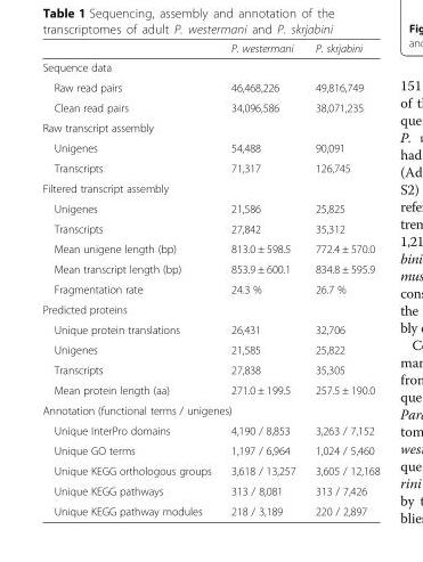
<table><thead><tr><td></td><td>P. westermani</td><td>P. skrjabini</td></tr></thead><tbody><tr><td colspan="3">Sequence data</td></tr><tr><td>Raw read pairs</td><td>46,468,226</td><td>49,816,749</td></tr><tr><td>Clean read pairs</td><td>34,096,586</td><td>38,071,235</td></tr><tr><td colspan="3">Raw transcript assembly</td></tr><tr><td>Unigenes</td><td>54,488</td><td>90,091</td></tr><tr><td>Transcripts</td><td>71,317</td><td>126,745</td></tr><tr><td colspan="3">Filtered transcript assembly</td></tr><tr><td>Unigenes</td><td>21,586</td><td>25,825</td></tr><tr><td>Transcripts</td><td>27,842</td><td>35,312</td></tr><tr><td>Mean unigene length (bp)</td><td>813.0 ± 598.5</td><td>772.4 ± 570.0</td></tr><tr><td>Mean transcript length (bp)</td><td>853.9 ± 600.1</td><td>834.8 ± 595.9</td></tr><tr><td>Fragmentation rate</td><td>24.3 %</td><td>26.7 %</td></tr><tr><td colspan="3">Predicted proteins</td></tr><tr><td>Unique protein translations</td><td>26,431</td><td>32,706</td></tr><tr><td>Unigenes</td><td>21,585</td><td>25,822</td></tr><tr><td>Transcripts</td><td>27,838</td><td>35,305</td></tr><tr><td>Mean protein length (aa)</td><td>271.0 ± 199.5</td><td>257.5 ± 190.0</td></tr><tr><td colspan="3">Annotation (functional terms / unigenes)</td></tr><tr><td>Unique InterPro domains</td><td>4,190 / 8,853</td><td>3,263 / 7,152</td></tr><tr><td>Unique GO terms</td><td>1,197 / 6,964</td><td>1,024 / 5,460</td></tr><tr><td>Unique KEGG orthologous groups</td><td>3,618 / 13,257</td><td>3,605 / 12,168</td></tr><tr><td>Unique KEGG pathways</td><td>313 / 8,081</td><td>313 / 7,426</td></tr><tr><td>Unique KEGG pathway modules</td><td>218 / 3,189</td><td>220 / 2,897</td></tr></tbody></table>